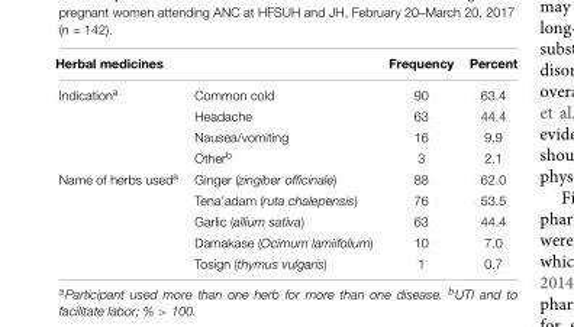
<table><thead><tr><td colspan="2">Herbal medicines</td><td rowspan="2">Frequency 90</td><td rowspan="2">Percent 63.4</td></tr><tr><td>Indication<sup>a</sup></td><td>Common cold</td></tr></thead><tbody><tr><td></td><td>Headache</td><td>63</td><td>44.4</td></tr><tr><td></td><td>Nausea/vomiting</td><td>16</td><td>9.9</td></tr><tr><td></td><td>Other<sup>b</sup></td><td>3</td><td>2.1</td></tr><tr><td rowspan="5">Name of herbs used<sup>a</sup></td><td>Ginger (zingiber officinale)</td><td>88</td><td>62.0</td></tr><tr><td>Tena’adam (ruta chalepensis)</td><td>76</td><td>53.5</td></tr><tr><td>Garlic (allium sativa)</td><td>63</td><td>44.4</td></tr><tr><td>Damakase (Ocimum lamiifolium)</td><td>10</td><td>7.0</td></tr><tr><td>Tosign (thymus vulgaris)</td><td>1</td><td>0.7</td></tr></tbody></table>